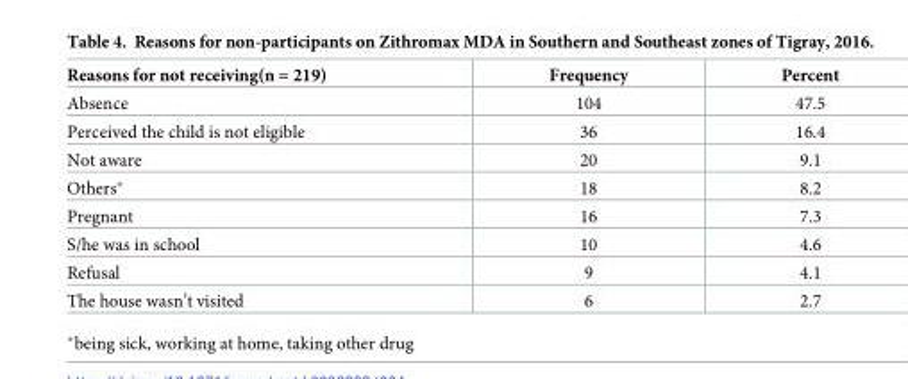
<table><thead><tr><td>Reasons for not receiving(n = 219)</td><td>Frequency</td><td>Percent</td></tr></thead><tbody><tr><td>Absence</td><td>104</td><td>47.5</td></tr><tr><td>Perceived the child is not eligible</td><td>36</td><td>16.4</td></tr><tr><td>Not aware</td><td>20</td><td>9.1</td></tr><tr><td>Others*</td><td>18</td><td>8.2</td></tr><tr><td>Pregnant</td><td>16</td><td>7.3</td></tr><tr><td>S/he was in school</td><td>10</td><td>4.6</td></tr><tr><td>Refusal</td><td>9</td><td>4.1</td></tr><tr><td>The house wasn’t visited</td><td>6</td><td>2.7</td></tr></tbody></table>